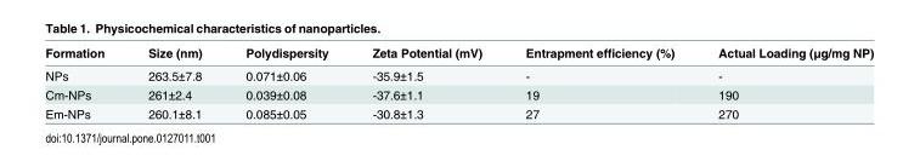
<table><thead><tr><td>Formation</td><td>Size (nm)</td><td>Polydispersity</td><td>Zeta Potential (mV)</td><td>Entrapment efficiency (%)</td><td>Actual Loading (μg/mg NP)</td></tr></thead><tbody><tr><td>NPs</td><td>263.5±7.8</td><td>0.071±0.06</td><td>-35.9±1.5</td><td>-</td><td>-</td></tr><tr><td>Cm-NPs</td><td>261±2.4</td><td>0.039±0.08</td><td>-37.6±1.1</td><td>19</td><td>190</td></tr><tr><td>Em-NPs</td><td>260.1±8.1</td><td>0.085±0.05</td><td>-30.8±1.3</td><td>27</td><td>270</td></tr></tbody></table>